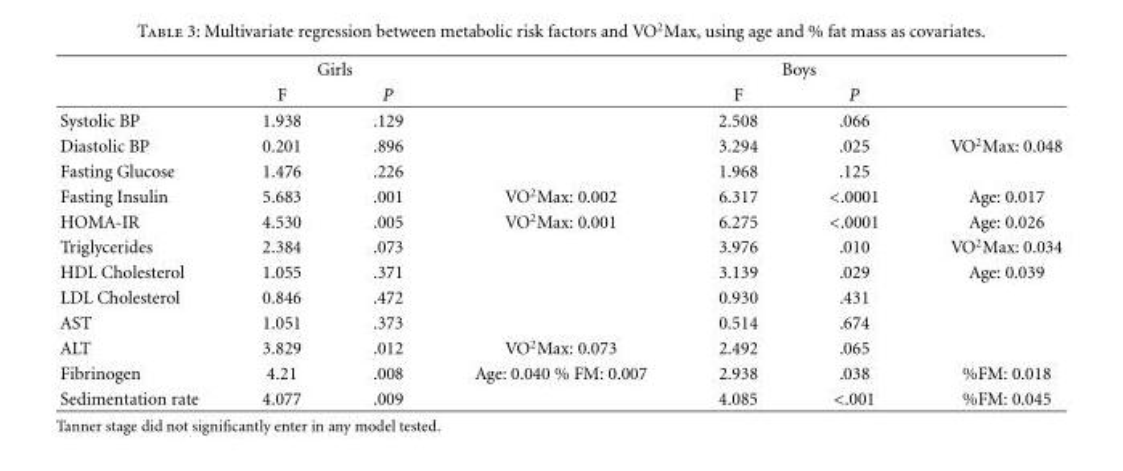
<table><thead><tr><td rowspan="2"></td><td colspan="2">Girls</td><td rowspan="2"></td><td colspan="2">Boys</td><td rowspan="2"></td></tr><tr><td>F</td><td>P</td><td>F</td><td>P</td></tr></thead><tbody><tr><td>Systolic BP</td><td>1.938</td><td>.129</td><td></td><td>2.508</td><td>.066</td><td></td></tr><tr><td>Diastolic BP</td><td>0.201</td><td>.896</td><td></td><td>3.294</td><td>.025</td><td>VO<sup>2</sup>Max: 0.048</td></tr><tr><td>Fasting Glucose</td><td>1.476</td><td>.226</td><td></td><td>1.968</td><td>.125</td><td></td></tr><tr><td>Fasting Insulin</td><td>5.683</td><td>.001</td><td>VO<sup>2</sup>Max: 0.002</td><td>6.317</td><td>&lt;.0001</td><td>Age: 0.017</td></tr><tr><td>HOMA-IR</td><td>4.530</td><td>.005</td><td>VO<sup>2</sup>Max: 0.001</td><td>6.275</td><td>&lt;.0001</td><td>Age: 0.026</td></tr><tr><td>Triglycerides</td><td>2.384</td><td>.073</td><td></td><td>3.976</td><td>.010</td><td>VO<sup>2</sup>Max: 0.034</td></tr><tr><td>HDL Cholesterol</td><td>1.055</td><td>.371</td><td></td><td>3.139</td><td>.029</td><td>Age: 0.039</td></tr><tr><td>LDL Cholesterol</td><td>0.846</td><td>.472</td><td></td><td>0.930</td><td>.431</td><td></td></tr><tr><td>AST</td><td>1.051</td><td>.373</td><td></td><td>0.514</td><td>.674</td><td></td></tr><tr><td>ALT</td><td>3.829</td><td>.012</td><td>VO<sup>2</sup>Max: 0.073</td><td>2.492</td><td>.065</td><td></td></tr><tr><td>Fibrinogen</td><td>4.21</td><td>.008</td><td>Age: 0.040 % FM: 0.007</td><td>2.938</td><td>.038</td><td>%FM: 0.018</td></tr><tr><td>Sedimentation rate</td><td>4.077</td><td>.009</td><td></td><td>4.085</td><td>&lt;.001</td><td>%FM: 0.045</td></tr></tbody></table>